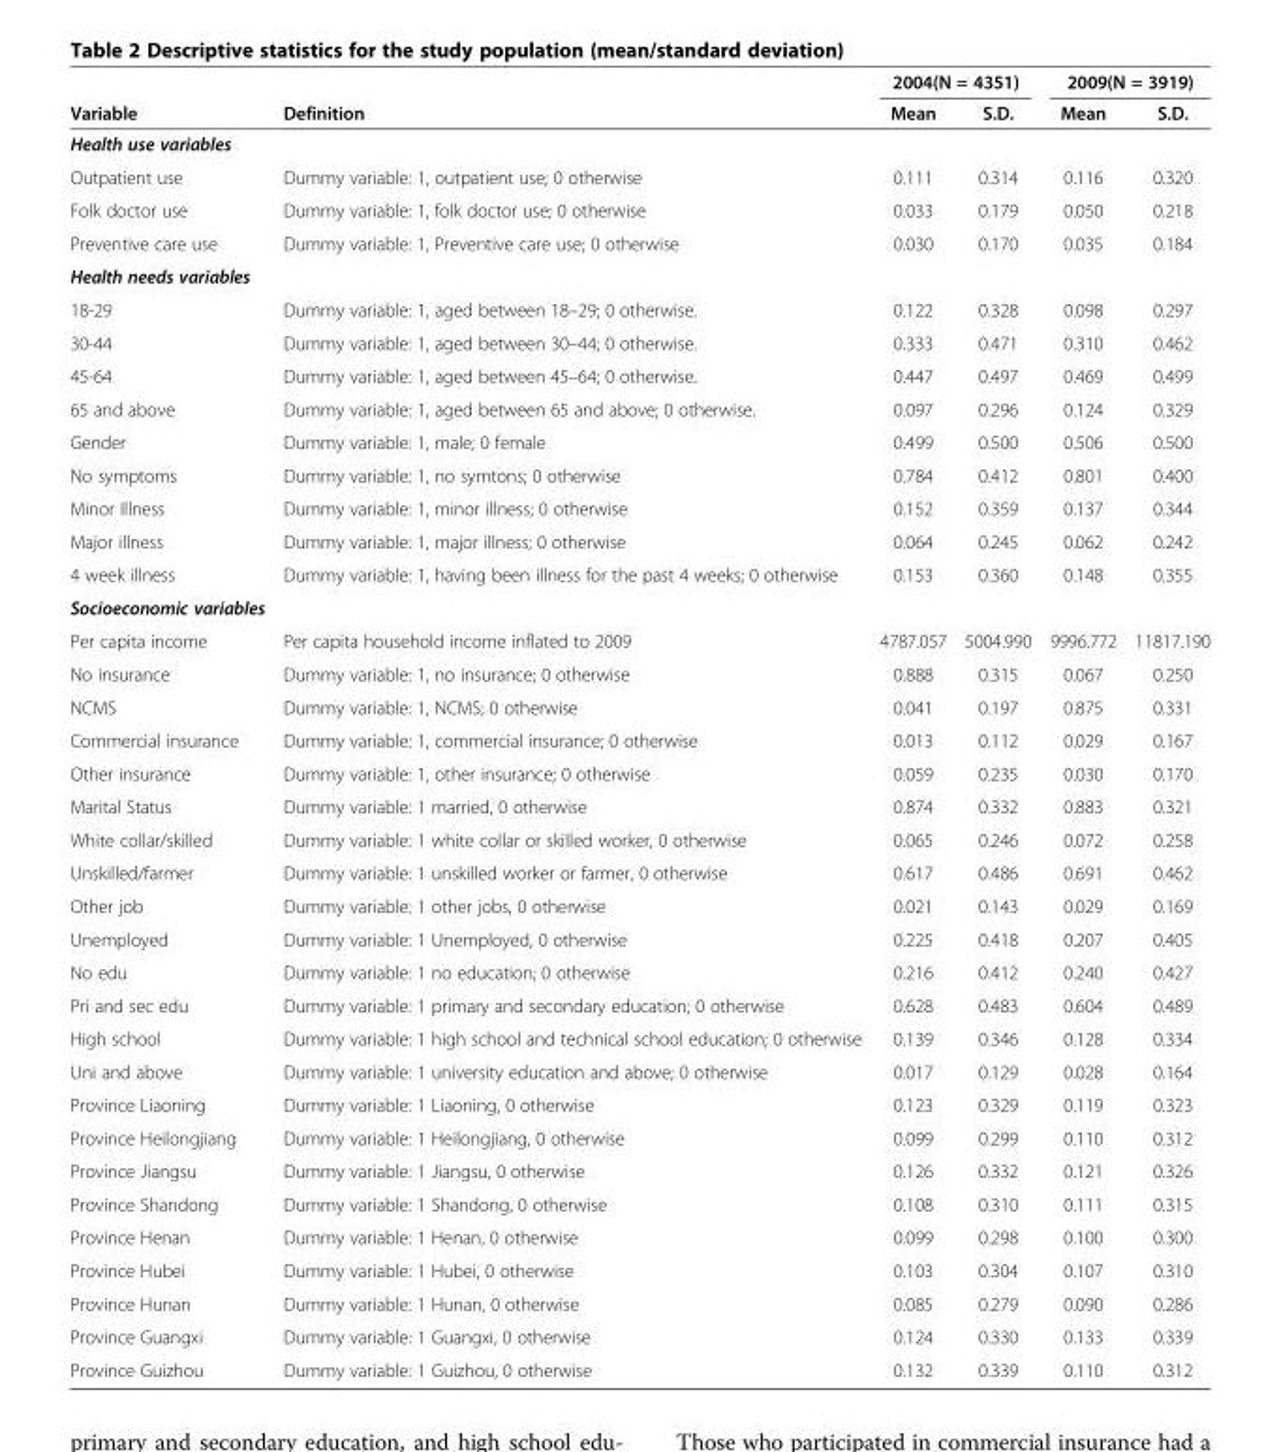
<table><thead><tr><td rowspan="2">Variable</td><td rowspan="2">Definition</td><td colspan="2">2004(N = 4351)</td><td colspan="2">2009(N = 3919)</td></tr><tr><td>Mean</td><td>S.D.</td><td>Mean</td><td>S.D.</td></tr></thead><tbody><tr><td colspan="6">Health use variables</td></tr><tr><td>Outpatient use</td><td>Dummy variable: 1, outpatient use; 0 otherwise</td><td>0.111</td><td>0.314</td><td>0.116</td><td>0.320</td></tr><tr><td>Folk doctor use</td><td>Dummy variable: 1, folk doctor use; 0 otherwise</td><td>0.033</td><td>0.179</td><td>0.050</td><td>0.218</td></tr><tr><td>Preventive care use</td><td>Dummy variable: 1, Preventive care use; 0 otherwise</td><td>0.030</td><td>0.170</td><td>0.035</td><td>0.184</td></tr><tr><td colspan="6">Health needs variables</td></tr><tr><td>18-29</td><td>Dummy variable: 1, aged between 18–29; 0 otherwise.</td><td>0.122</td><td>0.328</td><td>0.098</td><td>0.297</td></tr><tr><td>30-44</td><td>Dummy variable: 1, aged between 30–44; 0 otherwise.</td><td>0.333</td><td>0.471</td><td>0.310</td><td>0.462</td></tr><tr><td>45-64</td><td>Dummy variable: 1, aged between 45–64; 0 otherwise.</td><td>0.447</td><td>0.497</td><td>0.469</td><td>0.499</td></tr><tr><td>65 and above</td><td>Dummy variable: 1, aged between 65 and above; 0 otherwise.</td><td>0.097</td><td>0.296</td><td>0.124</td><td>0.329</td></tr><tr><td>Gender</td><td>Dummy variable: 1, male; 0 female</td><td>0.499</td><td>0.500</td><td>0.506</td><td>0.500</td></tr><tr><td>No symptoms</td><td>Dummy variable: 1, no symtons; 0 otherwise</td><td>0.784</td><td>0.412</td><td>0.801</td><td>0.400</td></tr><tr><td>Minor Illness</td><td>Dummy variable: 1, minor illness; 0 otherwise</td><td>0.152</td><td>0.359</td><td>0.137</td><td>0.344</td></tr><tr><td>Major illness</td><td>Dummy variable: 1, major illness; 0 otherwise</td><td>0.064</td><td>0.245</td><td>0.062</td><td>0.242</td></tr><tr><td>4 week illness</td><td>Dummy variable: 1, having been illness for the past 4 weeks; 0 otherwise</td><td>0.153</td><td>0.360</td><td>0.148</td><td>0.355</td></tr><tr><td colspan="6">Socioeconomic variables</td></tr><tr><td>Per capita income</td><td>Per capita household income inflated to 2009</td><td>4787.057</td><td>5004.990</td><td>9996.772</td><td>11817.190</td></tr><tr><td>No insurance</td><td>Dummy variable: 1, no insurance; 0 otherwise</td><td>0.888</td><td>0.315</td><td>0.067</td><td>0.250</td></tr><tr><td>NCMS</td><td>Dummy variable: 1, NCMS; 0 otherwise</td><td>0.041</td><td>0.197</td><td>0.875</td><td>0.331</td></tr><tr><td>Commercial insurance</td><td>Dummy variable: 1, commercial insurance; 0 otherwise</td><td>0.013</td><td>0.112</td><td>0.029</td><td>0.167</td></tr><tr><td>Other insurance</td><td>Dummy variable: 1, other insurance; 0 otherwise</td><td>0.059</td><td>0.235</td><td>0.030</td><td>0.170</td></tr><tr><td>Marital Status</td><td>Dummy variable: 1 married, 0 otherwise</td><td>0.874</td><td>0.332</td><td>0.883</td><td>0.321</td></tr><tr><td>White collar/skilled</td><td>Dummy variable: 1 white collar or skilled worker, 0 otherwise</td><td>0.065</td><td>0.246</td><td>0.072</td><td>0.258</td></tr><tr><td>Unskilled/farmer</td><td>Dummy variable: 1 unskilled worker or farmer, 0 otherwise</td><td>0.617</td><td>0.486</td><td>0.691</td><td>0.462</td></tr><tr><td>Other job</td><td>Dummy variable: 1 other jobs, 0 otherwise</td><td>0.021</td><td>0.143</td><td>0.029</td><td>0.169</td></tr><tr><td>Unemployed</td><td>Dummy variable: 1 Unemployed, 0 otherwise</td><td>0.225</td><td>0.418</td><td>0.207</td><td>0.405</td></tr><tr><td>No edu</td><td>Dummy variable: 1 no education; 0 otherwise</td><td>0.216</td><td>0.412</td><td>0.240</td><td>0.427</td></tr><tr><td>Pri and sec edu</td><td>Dummy variable: 1 primary and secondary education; 0 otherwise</td><td>0.628</td><td>0.483</td><td>0.604</td><td>0.489</td></tr><tr><td>High school</td><td>Dummy variable: 1 high school and technical school education; 0 otherwise</td><td>0.139</td><td>0.346</td><td>0.128</td><td>0.334</td></tr><tr><td>Uni and above</td><td>Dummy variable: 1 university education and above; 0 otherwise</td><td>0.017</td><td>0.129</td><td>0.028</td><td>0.164</td></tr><tr><td>Province Liaoning</td><td>Dummy variable: 1 Liaoning, 0 otherwise</td><td>0.123</td><td>0.329</td><td>0.119</td><td>0.323</td></tr><tr><td>Province Heilongjiang</td><td>Dummy variable: 1 Heilongjiang, 0 otherwise</td><td>0.099</td><td>0.299</td><td>0.110</td><td>0.312</td></tr><tr><td>Province Jiangsu</td><td>Dummy variable: 1 Jiangsu, 0 otherwise</td><td>0.126</td><td>0.332</td><td>0.121</td><td>0.326</td></tr><tr><td>Province Shandong</td><td>Dummy variable: 1 Shandong, 0 otherwise</td><td>0.108</td><td>0.310</td><td>0.111</td><td>0.315</td></tr><tr><td>Province Henan</td><td>Dummy variable: 1 Henan, 0 otherwise</td><td>0.099</td><td>0.298</td><td>0.100</td><td>0.300</td></tr><tr><td>Province Hubei</td><td>Dummy variable: 1 Hubei, 0 otherwise</td><td>0.103</td><td>0.304</td><td>0.107</td><td>0.310</td></tr><tr><td>Province Hunan</td><td>Dummy variable: 1 Hunan, 0 otherwise</td><td>0.085</td><td>0.279</td><td>0.090</td><td>0.286</td></tr><tr><td>Province Guangxi</td><td>Dummy variable: 1 Guangxi, 0 otherwise</td><td>0.124</td><td>0.330</td><td>0.133</td><td>0.339</td></tr><tr><td>Province Guizhou</td><td>Dummy variable: 1 Guizhou, 0 otherwise</td><td>0.132</td><td>0.339</td><td>0.110</td><td>0.312</td></tr></tbody></table>